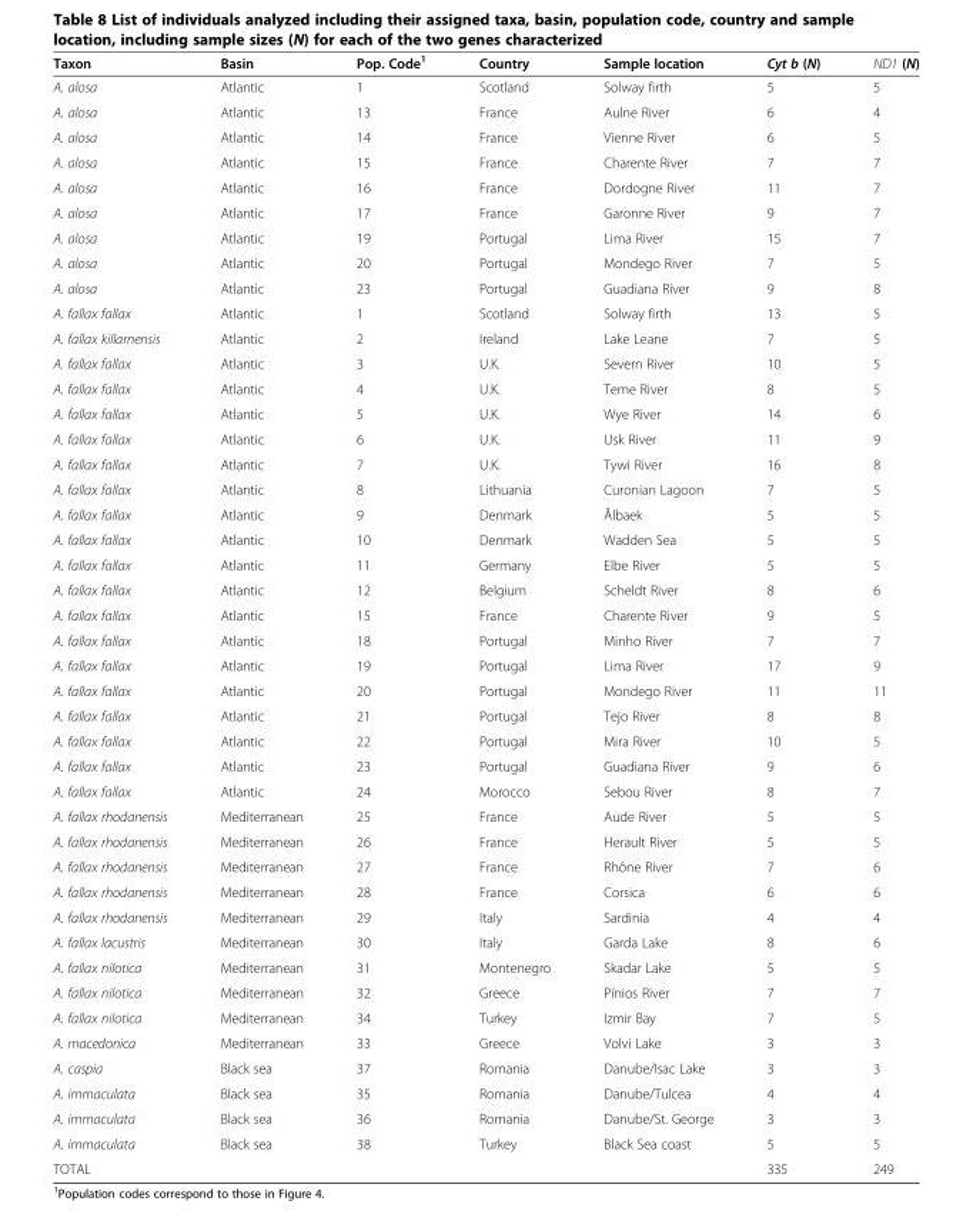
<table><thead><tr><td>Taxon</td><td>Basin</td><td>Pop. Code<sup>1</sup></td><td>Country</td><td>Sample location</td><td>Cyt b (N)</td><td>ND1 (N)</td></tr></thead><tbody><tr><td>A. alosa</td><td>Atlantic</td><td>1</td><td>Scotland</td><td>Solway firth</td><td>5</td><td>5</td></tr><tr><td>A. alosa</td><td>Atlantic</td><td>13</td><td>France</td><td>Aulne River</td><td>6</td><td>4</td></tr><tr><td>A. alosa</td><td>Atlantic</td><td>14</td><td>France</td><td>Vienne River</td><td>6</td><td>5</td></tr><tr><td>A. alosa</td><td>Atlantic</td><td>15</td><td>France</td><td>Charente River</td><td>7</td><td>7</td></tr><tr><td>A. alosa</td><td>Atlantic</td><td>16</td><td>France</td><td>Dordogne River</td><td>11</td><td>7</td></tr><tr><td>A. alosa</td><td>Atlantic</td><td>17</td><td>France</td><td>Garonne River</td><td>9</td><td>7</td></tr><tr><td>A. alosa</td><td>Atlantic</td><td>19</td><td>Portugal</td><td>Lima River</td><td>15</td><td>7</td></tr><tr><td>A. alosa</td><td>Atlantic</td><td>20</td><td>Portugal</td><td>Mondego River</td><td>7</td><td>5</td></tr><tr><td>A. alosa</td><td>Atlantic</td><td>23</td><td>Portugal</td><td>Guadiana River</td><td>9</td><td>8</td></tr><tr><td>A. fallax fallax</td><td>Atlantic</td><td>1</td><td>Scotland</td><td>Solway firth</td><td>13</td><td>5</td></tr><tr><td>A. fallax killarnensis</td><td>Atlantic</td><td>2</td><td>Ireland</td><td>Lake Leane</td><td>7</td><td>5</td></tr><tr><td>A. fallax fallax</td><td>Atlantic</td><td>3</td><td>U.K.</td><td>Severn River</td><td>10</td><td>5</td></tr><tr><td>A. fallax fallax</td><td>Atlantic</td><td>4</td><td>U.K.</td><td>Teme River</td><td>8</td><td>5</td></tr><tr><td>A. fallax fallax</td><td>Atlantic</td><td>5</td><td>U.K.</td><td>Wye River</td><td>14</td><td>6</td></tr><tr><td>A. fallax fallax</td><td>Atlantic</td><td>6</td><td>U.K.</td><td>Usk River</td><td>11</td><td>9</td></tr><tr><td>A. fallax fallax</td><td>Atlantic</td><td>7</td><td>U.K.</td><td>Tywi River</td><td>16</td><td>8</td></tr><tr><td>A. fallax fallax</td><td>Atlantic</td><td>8</td><td>Lithuania</td><td>Curonian Lagoon</td><td>7</td><td>5</td></tr><tr><td>A. fallax fallax</td><td>Atlantic</td><td>9</td><td>Denmark</td><td>Ålbaek</td><td>5</td><td>5</td></tr><tr><td>A. fallax fallax</td><td>Atlantic</td><td>10</td><td>Denmark</td><td>Wadden Sea</td><td>5</td><td>5</td></tr><tr><td>A. fallax fallax</td><td>Atlantic</td><td>11</td><td>Germany</td><td>Elbe River</td><td>5</td><td>5</td></tr><tr><td>A. fallax fallax</td><td>Atlantic</td><td>12</td><td>Belgium</td><td>Scheldt River</td><td>8</td><td>6</td></tr><tr><td>A. fallax fallax</td><td>Atlantic</td><td>15</td><td>France</td><td>Charente River</td><td>9</td><td>5</td></tr><tr><td>A. fallax fallax</td><td>Atlantic</td><td>18</td><td>Portugal</td><td>Minho River</td><td>7</td><td>7</td></tr><tr><td>A. fallax fallax</td><td>Atlantic</td><td>19</td><td>Portugal</td><td>Lima River</td><td>17</td><td>9</td></tr><tr><td>A. fallax fallax</td><td>Atlantic</td><td>20</td><td>Portugal</td><td>Mondego River</td><td>11</td><td>11</td></tr><tr><td>A. fallax fallax</td><td>Atlantic</td><td>21</td><td>Portugal</td><td>Tejo River</td><td>8</td><td>8</td></tr><tr><td>A. fallax fallax</td><td>Atlantic</td><td>22</td><td>Portugal</td><td>Mira River</td><td>10</td><td>5</td></tr><tr><td>A. fallax fallax</td><td>Atlantic</td><td>23</td><td>Portugal</td><td>Guadiana River</td><td>9</td><td>6</td></tr><tr><td>A. fallax fallax</td><td>Atlantic</td><td>24</td><td>Morocco</td><td>Sebou River</td><td>8</td><td>7</td></tr><tr><td>A. fallax rhodanensis</td><td>Mediterranean</td><td>25</td><td>France</td><td>Aude River</td><td>5</td><td>5</td></tr><tr><td>A. fallax rhodanensis</td><td>Mediterranean</td><td>26</td><td>France</td><td>Herault River</td><td>5</td><td>5</td></tr><tr><td>A. fallax rhodanensis</td><td>Mediterranean</td><td>27</td><td>France</td><td>Rhône River</td><td>7</td><td>6</td></tr><tr><td>A. fallax rhodanensis</td><td>Mediterranean</td><td>28</td><td>France</td><td>Corsica</td><td>6</td><td>6</td></tr><tr><td>A. fallax rhodanensis</td><td>Mediterranean</td><td>29</td><td>Italy</td><td>Sardinia</td><td>4</td><td>4</td></tr><tr><td>A. fallax lacustris</td><td>Mediterranean</td><td>30</td><td>Italy</td><td>Garda Lake</td><td>8</td><td>6</td></tr><tr><td>A. fallax nilotica</td><td>Mediterranean</td><td>31</td><td>Montenegro</td><td>Skadar Lake</td><td>5</td><td>5</td></tr><tr><td>A. fallax nilotica</td><td>Mediterranean</td><td>32</td><td>Greece</td><td>Pínios River</td><td>7</td><td>7</td></tr><tr><td>A. fallax nilotica</td><td>Mediterranean</td><td>34</td><td>Turkey</td><td>Izmir Bay</td><td>7</td><td>5</td></tr><tr><td>A. macedonica</td><td>Mediterranean</td><td>33</td><td>Greece</td><td>Volvi Lake</td><td>3</td><td>3</td></tr><tr><td>A. caspia</td><td>Black sea</td><td>37</td><td>Romania</td><td>Danube/Isac Lake</td><td>3</td><td>3</td></tr><tr><td>A. immaculata</td><td>Black sea</td><td>35</td><td>Romania</td><td>Danube/Tulcea</td><td>4</td><td>4</td></tr><tr><td>A. immaculata</td><td>Black sea</td><td>36</td><td>Romania</td><td>Danube/St. George</td><td>3</td><td>3</td></tr><tr><td>A. immaculata</td><td>Black sea</td><td>38</td><td>Turkey</td><td>Black Sea coast</td><td>5</td><td>5</td></tr><tr><td>TOTAL</td><td></td><td></td><td></td><td></td><td>335</td><td>249</td></tr></tbody></table>